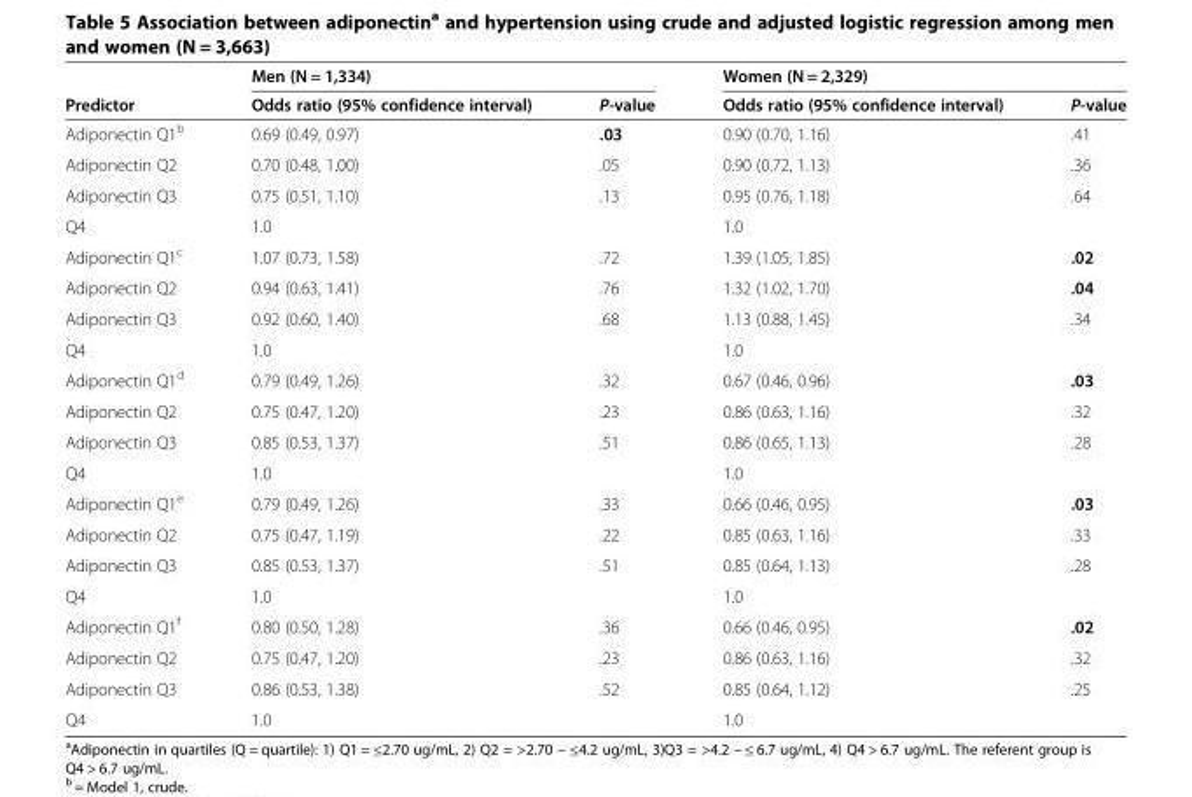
<table><thead><tr><td rowspan="2">Predictor</td><td colspan="2">Men (N = 1,334)</td><td colspan="2">Women (N = 2,329)</td></tr><tr><td>Odds ratio (95% confidence interval)</td><td>P-value</td><td>Odds ratio (95% confidence interval)</td><td>P-value</td></tr></thead><tbody><tr><td>Adiponectin Q1<sup>b</sup></td><td>0.69 (0.49, 0.97)</td><td>.03</td><td>0.90 (0.70, 1.16)</td><td>.41</td></tr><tr><td>Adiponectin Q2</td><td>0.70 (0.48, 1.00)</td><td>.05</td><td>0.90 (0.72, 1.13)</td><td>.36</td></tr><tr><td>Adiponectin Q3</td><td>0.75 (0.51, 1.10)</td><td>.13</td><td>0.95 (0.76, 1.18)</td><td>.64</td></tr><tr><td>Q4</td><td>1.0</td><td></td><td>1.0</td><td></td></tr><tr><td>Adiponectin Q1<sup>c</sup></td><td>1.07 (0.73, 1.58)</td><td>.72</td><td>1.39 (1.05, 1.85)</td><td>.02</td></tr><tr><td>Adiponectin Q2</td><td>0.94 (0.63, 1.41)</td><td>.76</td><td>1.32 (1.02, 1.70)</td><td>.04</td></tr><tr><td>Adiponectin Q3</td><td>0.92 (0.60, 1.40)</td><td>.68</td><td>1.13 (0.88, 1.45)</td><td>.34</td></tr><tr><td>Q4</td><td>1.0</td><td></td><td>1.0</td><td></td></tr><tr><td>Adiponectin Q1<sup>d</sup></td><td>0.79 (0.49, 1.26)</td><td>.32</td><td>0.67 (0.46, 0.96)</td><td>.03</td></tr><tr><td>Adiponectin Q2</td><td>0.75 (0.47, 1.20)</td><td>.23</td><td>0.86 (0.63, 1.16)</td><td>.32</td></tr><tr><td>Adiponectin Q3</td><td>0.85 (0.53, 1.37)</td><td>.51</td><td>0.86 (0.65, 1.13)</td><td>.28</td></tr><tr><td>Q4</td><td>1.0</td><td></td><td>1.0</td><td></td></tr><tr><td>Adiponectin Q1<sup>e</sup></td><td>0.79 (0.49, 1.26)</td><td>.33</td><td>0.66 (0.46, 0.95)</td><td>.03</td></tr><tr><td>Adiponectin Q2</td><td>0.75 (0.47, 1.19)</td><td>.22</td><td>0.85 (0.63, 1.16)</td><td>.33</td></tr><tr><td>Adiponectin Q3</td><td>0.85 (0.53, 1.37)</td><td>.51</td><td>0.85 (0.64, 1.13)</td><td>.28</td></tr><tr><td>Q4</td><td>1.0</td><td></td><td>1.0</td><td></td></tr><tr><td>Adiponectin Q1<sup>f</sup></td><td>0.80 (0.50, 1.28)</td><td>.36</td><td>0.66 (0.46, 0.95)</td><td>.02</td></tr><tr><td>Adiponectin Q2</td><td>0.75 (0.47, 1.20)</td><td>.23</td><td>0.86 (0.63, 1.16)</td><td>.32</td></tr><tr><td>Adiponectin Q3</td><td>0.86 (0.53, 1.38)</td><td>.52</td><td>0.85 (0.64, 1.12)</td><td>.25</td></tr><tr><td>Q4</td><td>1.0</td><td></td><td>1.0</td><td></td></tr></tbody></table>